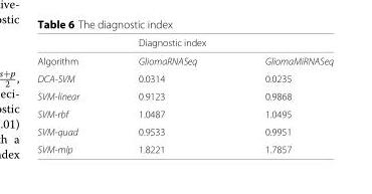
<table><thead><tr><td></td><td>Diagnostic index</td><td></td></tr></thead><tbody><tr><td>Algorithm</td><td>GliomaRNASeq</td><td>GliomaMiRNASeq</td></tr><tr><td>DCA-SVM</td><td>0.0314</td><td>0.0235</td></tr><tr><td>SVM-linear</td><td>0.9123</td><td>0.9868</td></tr><tr><td>SVM-rbf</td><td>1.0487</td><td>1.0495</td></tr><tr><td>SVM-quad</td><td>0.9533</td><td>0.9951</td></tr><tr><td>SVM-mlp</td><td>1.8221</td><td>1.7857</td></tr></tbody></table>